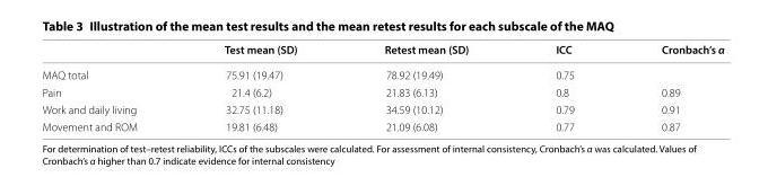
<table><thead><tr><td></td><td>Test mean (SD)</td><td>Retest mean (SD)</td><td>ICC</td><td>Cronbach’s α</td></tr></thead><tbody><tr><td>MAQ total</td><td>75.91 (19.47)</td><td>78.92 (19.49)</td><td>0.75</td><td></td></tr><tr><td>Pain</td><td>21.4 (6.2)</td><td>21.83 (6.13)</td><td>0.8</td><td>0.89</td></tr><tr><td>Work and daily living</td><td>32.75 (11.18)</td><td>34.59 (10.12)</td><td>0.79</td><td>0.91</td></tr><tr><td>Movement and ROM</td><td>19.81 (6.48)</td><td>21.09 (6.08)</td><td>0.77</td><td>0.87</td></tr></tbody></table>